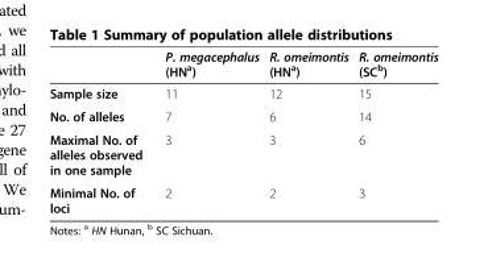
<table><thead><tr><td></td><td>P. megacephalus (HN<sup>a</sup>)</td><td>R. omeimontis (HN<sup>a</sup>)</td><td>R. omeimontis (SC<sup>b</sup>)</td></tr></thead><tbody><tr><td>Sample size</td><td>11</td><td>12</td><td>15</td></tr><tr><td>No. of alleles</td><td>7</td><td>6</td><td>14</td></tr><tr><td>Maximal No. of alleles observed in one sample</td><td>3</td><td>3</td><td>6</td></tr><tr><td>Minimal No. of loci</td><td>2</td><td>2</td><td>3</td></tr></tbody></table>